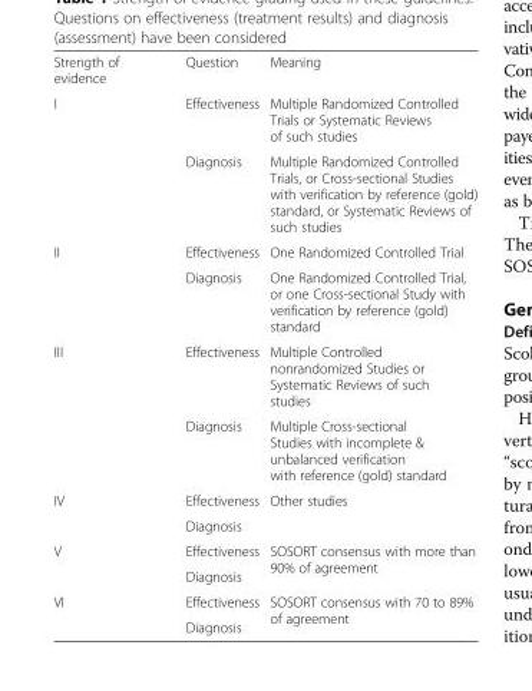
<table><tbody><tr><td>Strength of evidence</td><td>Question</td><td>Meaning</td></tr><tr><td rowspan="2">I</td><td>Effectiveness</td><td>Multiple Randomized Controlled Trials or Systematic Reviews of such studies</td></tr><tr><td>Diagnosis</td><td>Multiple Randomized Controlled Trials, or Cross-sectional Studies with verification by reference (gold) standard, or Systematic Reviews of such studies</td></tr><tr><td rowspan="2">II</td><td>Effectiveness</td><td>One Randomized Controlled Trial</td></tr><tr><td>Diagnosis</td><td>One Randomized Controlled Trial, or one Cross-sectional Study with verification by reference (gold) standard</td></tr><tr><td rowspan="2">III</td><td>Effectiveness</td><td>Multiple Controlled nonrandomized Studies or Systematic Reviews of such studies</td></tr><tr><td>Diagnosis</td><td>Multiple Cross-sectional Studies with incomplete &amp; unbalanced verification with reference (gold) standard</td></tr><tr><td rowspan="2">IV</td><td>Effectiveness</td><td rowspan="2">Other studies</td></tr><tr><td>Diagnosis</td></tr><tr><td rowspan="2">V</td><td>Effectiveness</td><td rowspan="2">SOSORT consensus with more than 90% of agreement</td></tr><tr><td>Diagnosis</td></tr><tr><td rowspan="2">VI</td><td>Effectiveness</td><td rowspan="2">SOSORT consensus with 70 to 89% of agreement</td></tr><tr><td>Diagnosis</td></tr></tbody></table>